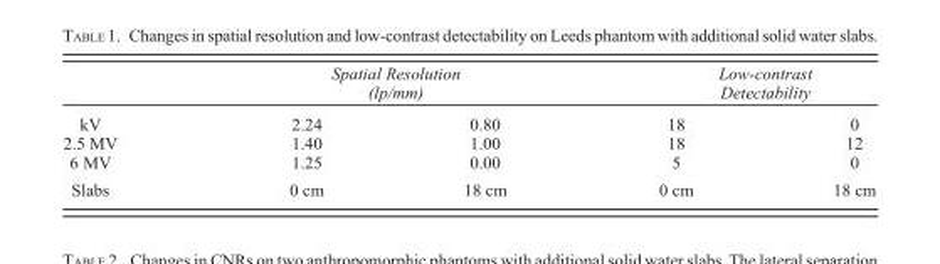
<table><thead><tr><td rowspan="2">kV</td><td colspan="2">Spatial Resolution (lp/mm)</td><td colspan="2">Low-contrast Detectability</td></tr><tr><td>2.24</td><td>0.80</td><td>18</td><td>0</td></tr></thead><tbody><tr><td>2.5 MV</td><td>1.40</td><td>1.00</td><td>18</td><td>12</td></tr><tr><td>6 MV</td><td>1.25</td><td>0.00</td><td>5</td><td>0</td></tr><tr><td>Slabs</td><td>0 cm</td><td>18 cm</td><td>0 cm</td><td>18 cm</td></tr></tbody></table>